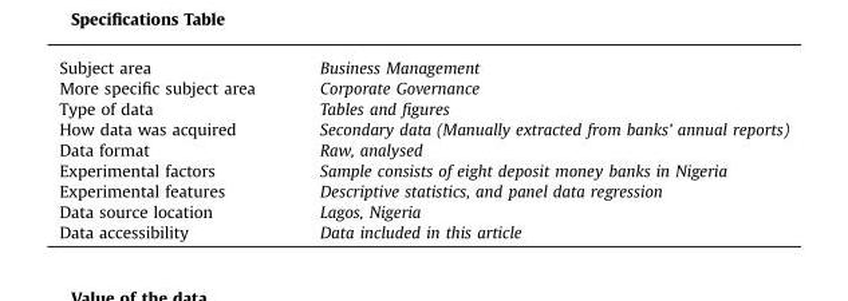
<table><tbody><tr><td>Subject area</td><td>Business Management</td></tr><tr><td>More specific subject area</td><td>Corporate Governance</td></tr><tr><td>Type of data</td><td>Tables and figures</td></tr><tr><td>How data was acquired</td><td>Secondary data (Manually extracted from banks’ annual reports)</td></tr><tr><td>Data format</td><td>Raw, analysed</td></tr><tr><td>Experimental factors</td><td>Sample consists of eight deposit money banks in Nigeria</td></tr><tr><td>Experimental features</td><td>Descriptive statistics, and panel data regression</td></tr><tr><td>Data source location</td><td>Lagos, Nigeria</td></tr><tr><td>Data accessibility</td><td>Data included in this article</td></tr></tbody></table>